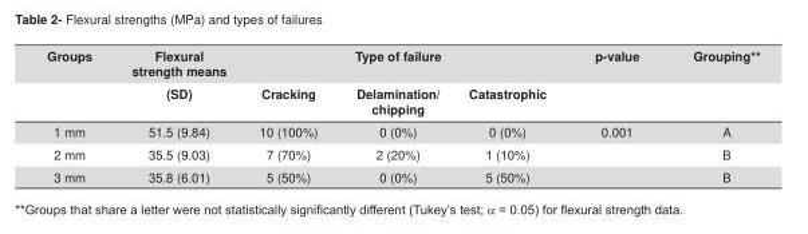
<table><thead><tr><td rowspan="2">Groups</td><td rowspan="2">Flexural strength means (SD)</td><td rowspan="2">Cracking</td><td rowspan="2">Type of failure Delamination/ chipping</td><td rowspan="2">Catastrophic</td><td rowspan="2">p-value</td><td rowspan="2">Grouping**</td></tr><tr></tr></thead><tbody><tr><td>1 mm</td><td>51.5 (9.84)</td><td>10 (100%)</td><td>0 (0%)</td><td>0 (0%)</td><td>0.001</td><td>A</td></tr><tr><td>2 mm</td><td>35.5 (9.03)</td><td>7 (70%)</td><td>2 (20%)</td><td>1 (10%)</td><td></td><td>B</td></tr><tr><td>3 mm</td><td>35.8 (6.01)</td><td>5 (50%)</td><td>0 (0%)</td><td>5 (50%)</td><td></td><td>B</td></tr></tbody></table>